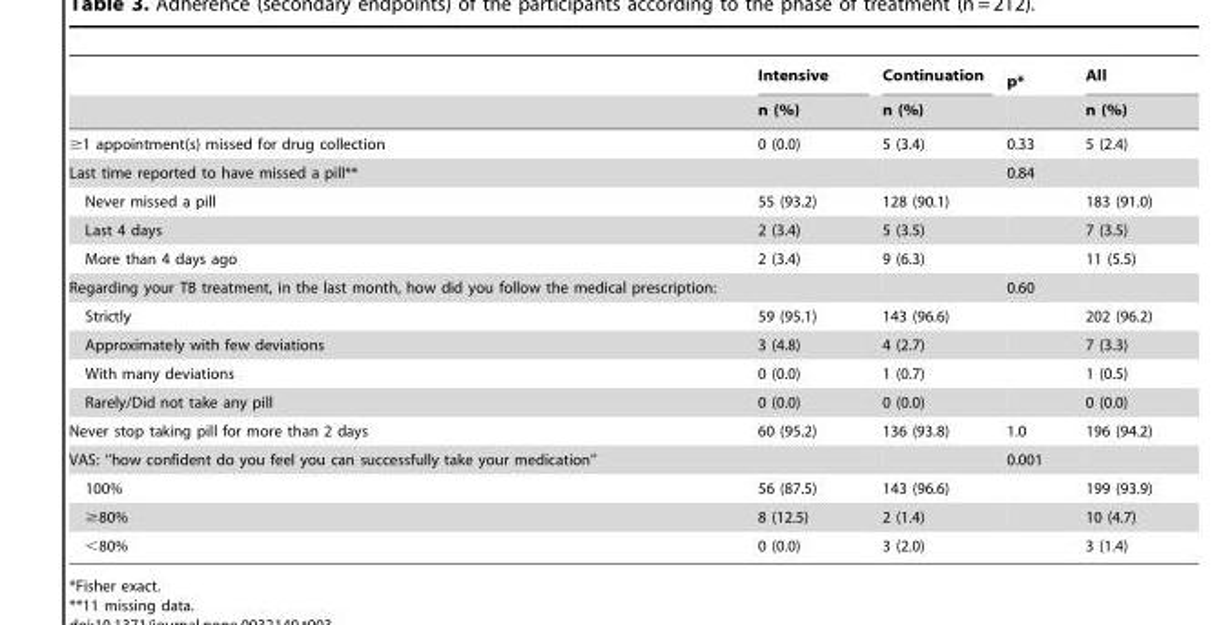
<table><thead><tr><td rowspan="2"></td><td rowspan="2">Intensive n (%)</td><td rowspan="2">Continuation n (%)</td><td rowspan="2">p*</td><td rowspan="2">All n (%)</td></tr><tr></tr></thead><tbody><tr><td>≥1 appointment(s) missed for drug collection</td><td>0 (0.0)</td><td>5 (3.4)</td><td>0.33</td><td>5 (2.4)</td></tr><tr><td>Last time reported to have missed a pill**</td><td></td><td></td><td>0.84</td><td></td></tr><tr><td>Never missed a pill</td><td>55 (93.2)</td><td>128 (90.1)</td><td></td><td>183 (91.0)</td></tr><tr><td>Last 4 days</td><td>2 (3.4)</td><td>5 (3.5)</td><td></td><td>7 (3.5)</td></tr><tr><td>More than 4 days ago</td><td>2 (3.4)</td><td>9 (6.3)</td><td></td><td>11 (5.5)</td></tr><tr><td>Regarding your TB treatment, in the last month, how did you follow the medical prescription:</td><td></td><td></td><td>0.60</td><td></td></tr><tr><td>Strictly</td><td>59 (95.1)</td><td>143 (96.6)</td><td></td><td>202 (96.2)</td></tr><tr><td>Approximately with few deviations</td><td>3 (4.8)</td><td>4 (2.7)</td><td></td><td>7 (3.3)</td></tr><tr><td>With many deviations</td><td>0 (0.0)</td><td>1 (0.7)</td><td></td><td>1 (0.5)</td></tr><tr><td>Rarely/Did not take any pill</td><td>0 (0.0)</td><td>0 (0.0)</td><td></td><td>0 (0.0)</td></tr><tr><td>Never stop taking pill for more than 2 days</td><td>60 (95.2)</td><td>136 (93.8)</td><td>1.0</td><td>196 (94.2)</td></tr><tr><td>VAS: ‘‘how confident do you feel you can successfully take your medication’’</td><td></td><td></td><td>0.001</td><td></td></tr><tr><td>100%</td><td>56 (87.5)</td><td>143 (96.6)</td><td></td><td>199 (93.9)</td></tr><tr><td>≥80%</td><td>8 (12.5)</td><td>2 (1.4)</td><td></td><td>10 (4.7)</td></tr><tr><td>&lt;80%</td><td>0 (0.0)</td><td>3 (2.0)</td><td></td><td>3 (1.4)</td></tr></tbody></table>